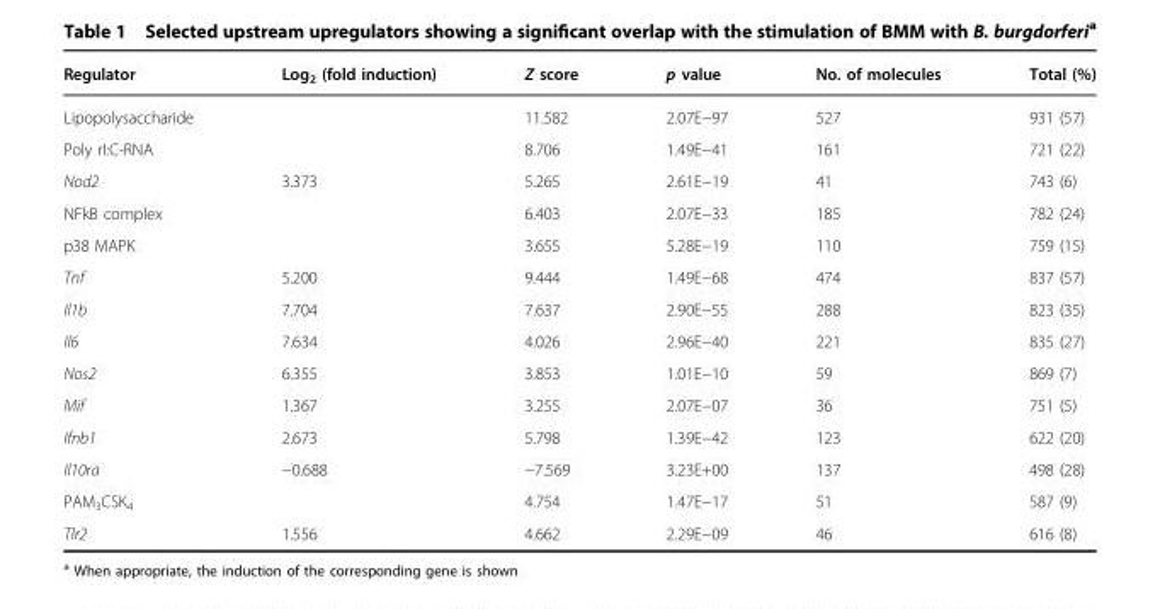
<table><thead><tr><td>Regulator</td><td>Log<sub>2</sub> (fold induction)</td><td>Z score</td><td>p value</td><td>No. of molecules</td><td>Total (%)</td></tr></thead><tbody><tr><td>Lipopolysaccharide</td><td></td><td>11.582</td><td>2.07E−97</td><td>527</td><td>931 (57)</td></tr><tr><td>Poly rI:C-RNA</td><td></td><td>8.706</td><td>1.49E−41</td><td>161</td><td>721 (22)</td></tr><tr><td>Nod2</td><td>3.373</td><td>5.265</td><td>2.61E−19</td><td>41</td><td>743 (6)</td></tr><tr><td>NFkB complex</td><td></td><td>6.403</td><td>2.07E−33</td><td>185</td><td>782 (24)</td></tr><tr><td>p38 MAPK</td><td></td><td>3.655</td><td>5.28E−19</td><td>110</td><td>759 (15)</td></tr><tr><td>Tnf</td><td>5.200</td><td>9.444</td><td>1.49E−68</td><td>474</td><td>837 (57)</td></tr><tr><td>Il1b</td><td>7.704</td><td>7.637</td><td>2.90E−55</td><td>288</td><td>823 (35)</td></tr><tr><td>Il6</td><td>7.634</td><td>4.026</td><td>2.96E−40</td><td>221</td><td>835 (27)</td></tr><tr><td>Nos2</td><td>6.355</td><td>3.853</td><td>1.01E−10</td><td>59</td><td>869 (7)</td></tr><tr><td>Mif</td><td>1.367</td><td>3.255</td><td>2.07E−07</td><td>36</td><td>751 (5)</td></tr><tr><td>Ifnb1</td><td>2.673</td><td>5.798</td><td>1.39E−42</td><td>123</td><td>622 (20)</td></tr><tr><td>Il10ra</td><td>−0.688</td><td>−7.569</td><td>3.23E+00</td><td>137</td><td>498 (28)</td></tr><tr><td>PAM<sub>3</sub>CSK<sub>4</sub></td><td></td><td>4.754</td><td>1.47E−17</td><td>51</td><td>587 (9)</td></tr><tr><td>Tlr2</td><td>1.556</td><td>4.662</td><td>2.29E−09</td><td>46</td><td>616 (8)</td></tr></tbody></table>